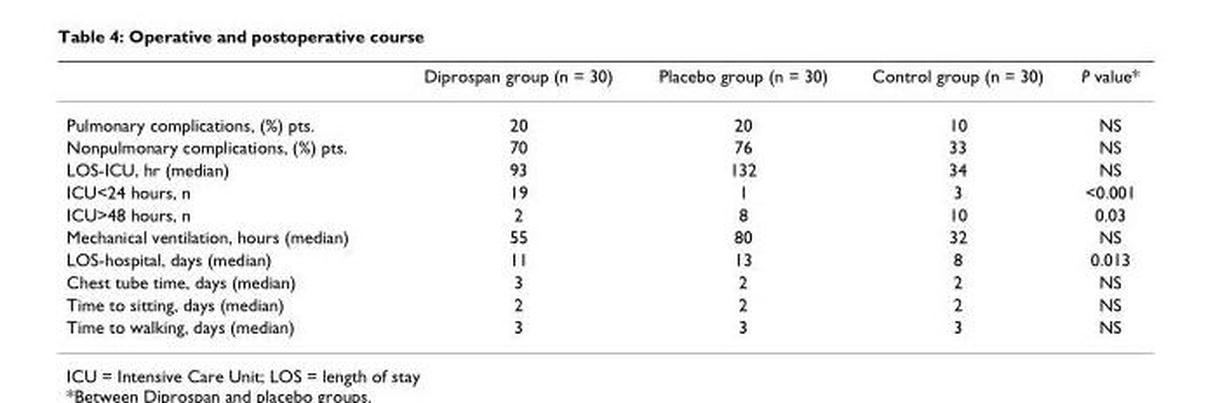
<table><thead><tr><td></td><td>Diprospan group (n = 30)</td><td>Placebo group (n = 30)</td><td>Control group (n = 30)</td><td>P value*</td></tr></thead><tbody><tr><td>Pulmonary complications, (%) pts.</td><td>20</td><td>20</td><td>10</td><td>NS</td></tr><tr><td>Nonpulmonary complications, (%) pts.</td><td>70</td><td>76</td><td>33</td><td>NS</td></tr><tr><td>LOS-ICU, hr (median)</td><td>93</td><td>132</td><td>34</td><td>NS</td></tr><tr><td>ICU&lt;24 hours, n</td><td>19</td><td>1</td><td>3</td><td>&lt;0.001</td></tr><tr><td>ICU&gt;48 hours, n</td><td>2</td><td>8</td><td>10</td><td>0.03</td></tr><tr><td>Mechanical ventilation, hours (median)</td><td>55</td><td>80</td><td>32</td><td>NS</td></tr><tr><td>LOS-hospital, days (median)</td><td>11</td><td>13</td><td>8</td><td>0.013</td></tr><tr><td>Chest tube time, days (median)</td><td>3</td><td>2</td><td>2</td><td>NS</td></tr><tr><td>Time to sitting, days (median)</td><td>2</td><td>2</td><td>2</td><td>NS</td></tr><tr><td>Time to walking, days (median)</td><td>3</td><td>3</td><td>3</td><td>NS</td></tr></tbody></table>